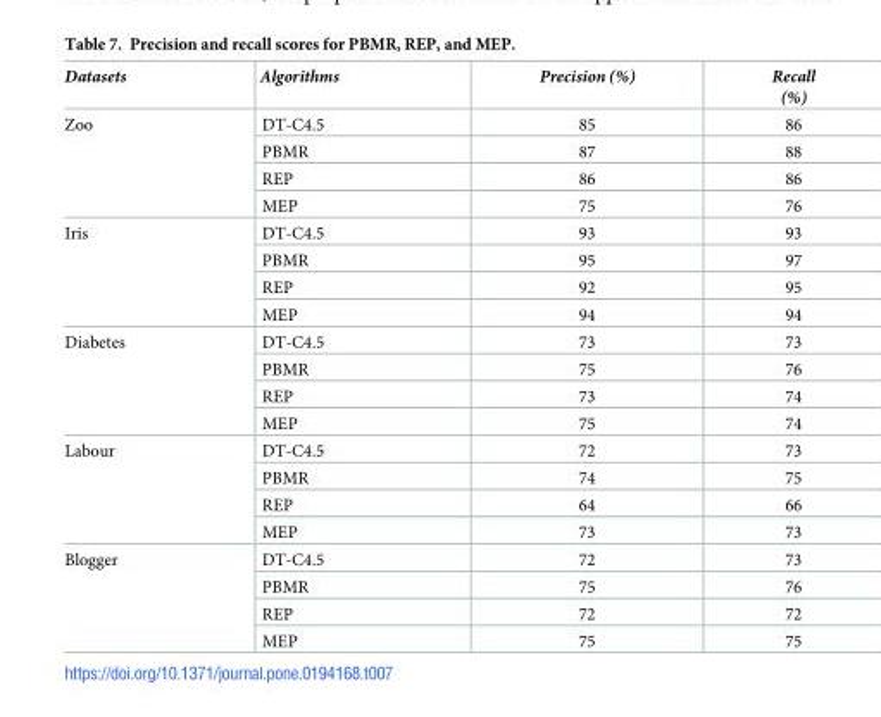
<table><thead><tr><td>Datasets</td><td>Algorithms</td><td>Precision (%)</td><td>Recall (%)</td></tr></thead><tbody><tr><td rowspan="4">Zoo</td><td>DT-C4.5</td><td>85</td><td>86</td></tr><tr><td>PBMR</td><td>87</td><td>88</td></tr><tr><td>REP</td><td>86</td><td>86</td></tr><tr><td>MEP</td><td>75</td><td>76</td></tr><tr><td rowspan="4">Iris</td><td>DT-C4.5</td><td>93</td><td>93</td></tr><tr><td>PBMR</td><td>95</td><td>97</td></tr><tr><td>REP</td><td>92</td><td>95</td></tr><tr><td>MEP</td><td>94</td><td>94</td></tr><tr><td rowspan="4">Diabetes</td><td>DT-C4.5</td><td>73</td><td>73</td></tr><tr><td>PBMR</td><td>75</td><td>76</td></tr><tr><td>REP</td><td>73</td><td>74</td></tr><tr><td>MEP</td><td>75</td><td>74</td></tr><tr><td rowspan="4">Labour</td><td>DT-C4.5</td><td>72</td><td>73</td></tr><tr><td>PBMR</td><td>74</td><td>75</td></tr><tr><td>REP</td><td>64</td><td>66</td></tr><tr><td>MEP</td><td>73</td><td>73</td></tr><tr><td rowspan="4">Blogger</td><td>DT-C4.5</td><td>72</td><td>73</td></tr><tr><td>PBMR</td><td>75</td><td>76</td></tr><tr><td>REP</td><td>72</td><td>72</td></tr><tr><td>MEP</td><td>75</td><td>75</td></tr></tbody></table>